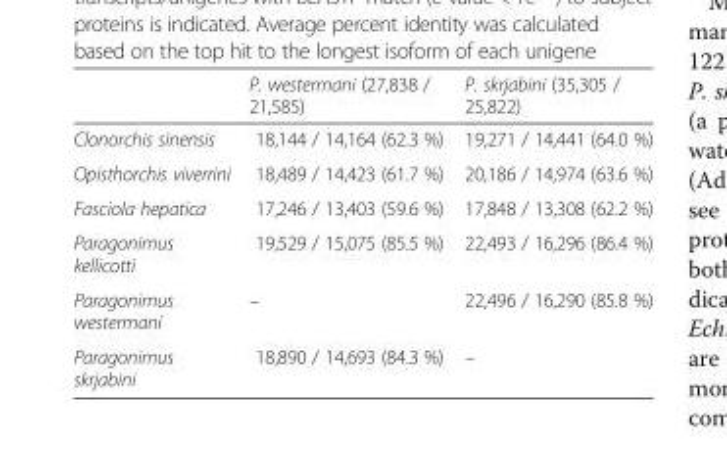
<table><thead><tr><td></td><td>P. westermani (27,838 / 21,585)</td><td>P. skrjabini (35,305 / 25,822)</td></tr></thead><tbody><tr><td>Clonorchis sinensis</td><td>18,144 / 14,164 (62.3 %)</td><td>19,271 / 14,441 (64.0 %)</td></tr><tr><td>Opisthorchis viverrini</td><td>18,489 / 14,423 (61.7 %)</td><td>20,186 / 14,974 (63.6 %)</td></tr><tr><td>Fasciola hepatica</td><td>17,246 / 13,403 (59.6 %)</td><td>17,848 / 13,308 (62.2 %)</td></tr><tr><td>Paragonimus kellicotti</td><td>19,529 / 15,075 (85.5 %)</td><td>22,493 / 16,296 (86.4 %)</td></tr><tr><td>Paragonimus westermani</td><td>–</td><td>22,496 / 16,290 (85.8 %)</td></tr><tr><td>Paragonimus skrjabini</td><td>18,890 / 14,693 (84.3 %)</td><td>–</td></tr></tbody></table>